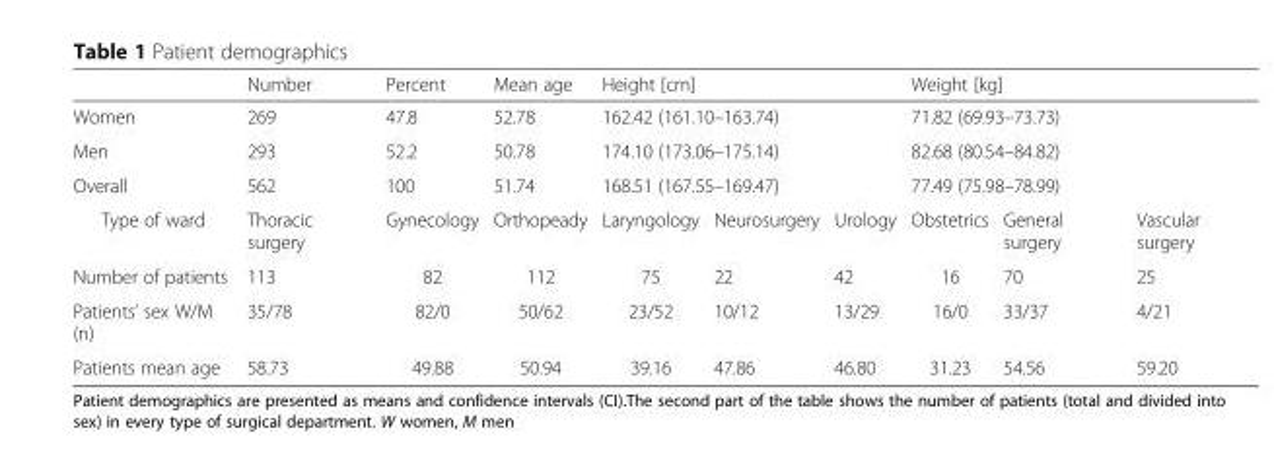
<table><thead><tr><td></td><td>Number</td><td>Percent</td><td>Mean age</td><td colspan="3">Height [cm]</td><td colspan="3">Weight [kg]</td></tr></thead><tbody><tr><td>Women</td><td>269</td><td>47.8</td><td>52.78</td><td colspan="3">162.42 (161.10–163.74)</td><td colspan="3">71.82 (69.93–73.73)</td></tr><tr><td>Men</td><td>293</td><td>52.2</td><td>50.78</td><td colspan="3">174.10 (173.06–175.14)</td><td colspan="3">82.68 (80.54–84.82)</td></tr><tr><td>Overall</td><td>562</td><td>100</td><td>51.74</td><td colspan="3">168.51 (167.55–169.47)</td><td colspan="3">77.49 (75.98–78.99)</td></tr><tr><td>Type of ward</td><td>Thoracic surgery</td><td>Gynecology</td><td>Orthopeady</td><td>Laryngology</td><td>Neurosurgery</td><td>Urology</td><td>Obstetrics</td><td>General surgery</td><td>Vascular surgery</td></tr><tr><td>Number of patients</td><td>113</td><td>82</td><td>112</td><td>75</td><td>22</td><td>42</td><td>16</td><td>70</td><td>25</td></tr><tr><td>Patients’ sex W/M (n)</td><td>35/78</td><td>82/0</td><td>50/62</td><td>23/52</td><td>10/12</td><td>13/29</td><td>16/0</td><td>33/37</td><td>4/21</td></tr><tr><td>Patients mean age</td><td>58.73</td><td>49.88</td><td>50.94</td><td>39.16</td><td>47.86</td><td>46.80</td><td>31.23</td><td>54.56</td><td>59.20</td></tr></tbody></table>